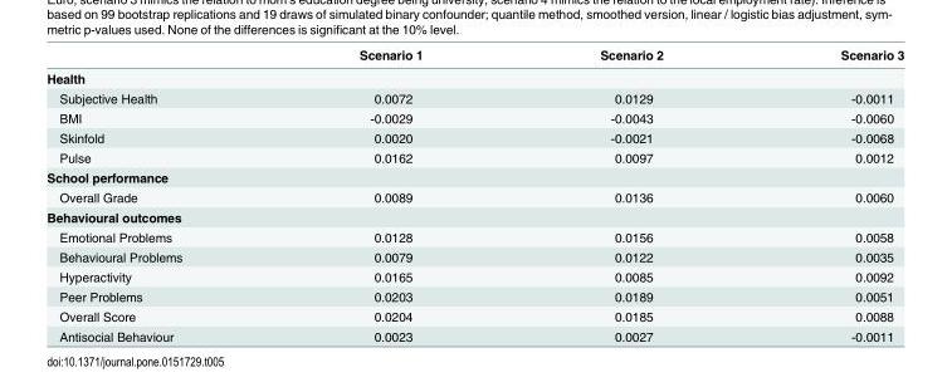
<table><thead><tr><td></td><td>Scenario 1</td><td>Scenario 2</td><td>Scenario 3</td></tr></thead><tbody><tr><td colspan="4">Health</td></tr><tr><td>Subjective Health</td><td>0.0072</td><td>0.0129</td><td>-0.0011</td></tr><tr><td>BMI</td><td>-0.0029</td><td>-0.0043</td><td>-0.0060</td></tr><tr><td>Skinfold</td><td>0.0020</td><td>-0.0021</td><td>-0.0068</td></tr><tr><td>Pulse</td><td>0.0162</td><td>0.0097</td><td>0.0012</td></tr><tr><td colspan="4">School performance</td></tr><tr><td>Overall Grade</td><td>0.0089</td><td>0.0136</td><td>0.0060</td></tr><tr><td colspan="4">Behavioural outcomes</td></tr><tr><td>Emotional Problems</td><td>0.0128</td><td>0.0156</td><td>0.0058</td></tr><tr><td>Behavioural Problems</td><td>0.0079</td><td>0.0122</td><td>0.0035</td></tr><tr><td>Hyperactivity</td><td>0.0165</td><td>0.0085</td><td>0.0092</td></tr><tr><td>Peer Problems</td><td>0.0203</td><td>0.0189</td><td>0.0051</td></tr><tr><td>Overall Score</td><td>0.0204</td><td>0.0185</td><td>0.0088</td></tr><tr><td>Antisocial Behaviour</td><td>0.0023</td><td>0.0027</td><td>-0.0011</td></tr></tbody></table>